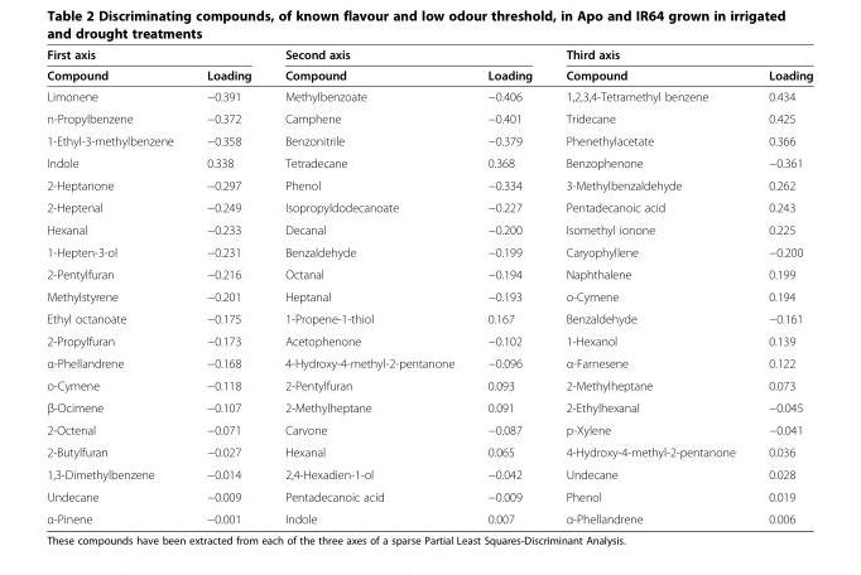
<table><thead><tr><td colspan="2">First axis</td><td colspan="2">Second axis</td><td colspan="2">Third axis</td></tr><tr><td>Compound</td><td>Loading</td><td>Compound</td><td>Loading</td><td>Compound</td><td>Loading</td></tr></thead><tbody><tr><td>Limonene</td><td>−0.391</td><td>Methylbenzoate</td><td>−0.406</td><td>1,2,3,4-Tetramethyl benzene</td><td>0.434</td></tr><tr><td>n-Propylbenzene</td><td>−0.372</td><td>Camphene</td><td>−0.401</td><td>Tridecane</td><td>0.425</td></tr><tr><td>1-Ethyl-3-methylbenzene</td><td>−0.358</td><td>Benzonitrile</td><td>−0.379</td><td>Phenethylacetate</td><td>0.366</td></tr><tr><td>Indole</td><td>0.338</td><td>Tetradecane</td><td>0.368</td><td>Benzophenone</td><td>−0.361</td></tr><tr><td>2-Heptanone</td><td>−0.297</td><td>Phenol</td><td>−0.334</td><td>3-Methylbenzaldehyde</td><td>0.262</td></tr><tr><td>2-Heptenal</td><td>−0.249</td><td>Isopropyldodecanoate</td><td>−0.227</td><td>Pentadecanoic acid</td><td>0.243</td></tr><tr><td>Hexanal</td><td>−0.233</td><td>Decanal</td><td>−0.200</td><td>Isomethyl ionone</td><td>0.225</td></tr><tr><td>1-Hepten-3-ol</td><td>−0.231</td><td>Benzaldehyde</td><td>−0.199</td><td>Caryophyllene</td><td>−0.200</td></tr><tr><td>2-Pentylfuran</td><td>−0.216</td><td>Octanal</td><td>−0.194</td><td>Naphthalene</td><td>0.199</td></tr><tr><td>Methylstyrene</td><td>−0.201</td><td>Heptanal</td><td>−0.193</td><td>o-Cymene</td><td>0.194</td></tr><tr><td>Ethyl octanoate</td><td>−0.175</td><td>1-Propene-1-thiol</td><td>0.167</td><td>Benzaldehyde</td><td>−0.161</td></tr><tr><td>2-Propylfuran</td><td>−0.173</td><td>Acetophenone</td><td>−0.102</td><td>1-Hexanol</td><td>0.139</td></tr><tr><td>α-Phellandrene</td><td>−0.168</td><td>4-Hydroxy-4-methyl-2-pentanone</td><td>−0.096</td><td>α-Farnesene</td><td>0.122</td></tr><tr><td>o-Cymene</td><td>−0.118</td><td>2-Pentylfuran</td><td>0.093</td><td>2-Methylheptane</td><td>0.073</td></tr><tr><td>β-Ocimene</td><td>−0.107</td><td>2-Methylheptane</td><td>0.091</td><td>2-Ethylhexanal</td><td>−0.045</td></tr><tr><td>2-Octenal</td><td>−0.071</td><td>Carvone</td><td>−0.087</td><td>p-Xylene</td><td>−0.041</td></tr><tr><td>2-Butylfuran</td><td>−0.027</td><td>Hexanal</td><td>0.065</td><td>4-Hydroxy-4-methyl-2-pentanone</td><td>0.036</td></tr><tr><td>1,3-Dimethylbenzene</td><td>−0.014</td><td>2,4-Hexadien-1-ol</td><td>−0.042</td><td>Undecane</td><td>0.028</td></tr><tr><td>Undecane</td><td>−0.009</td><td>Pentadecanoic acid</td><td>−0.009</td><td>Phenol</td><td>0.019</td></tr><tr><td>α-Pinene</td><td>−0.001</td><td>Indole</td><td>0.007</td><td>α-Phellandrene</td><td>0.006</td></tr></tbody></table>